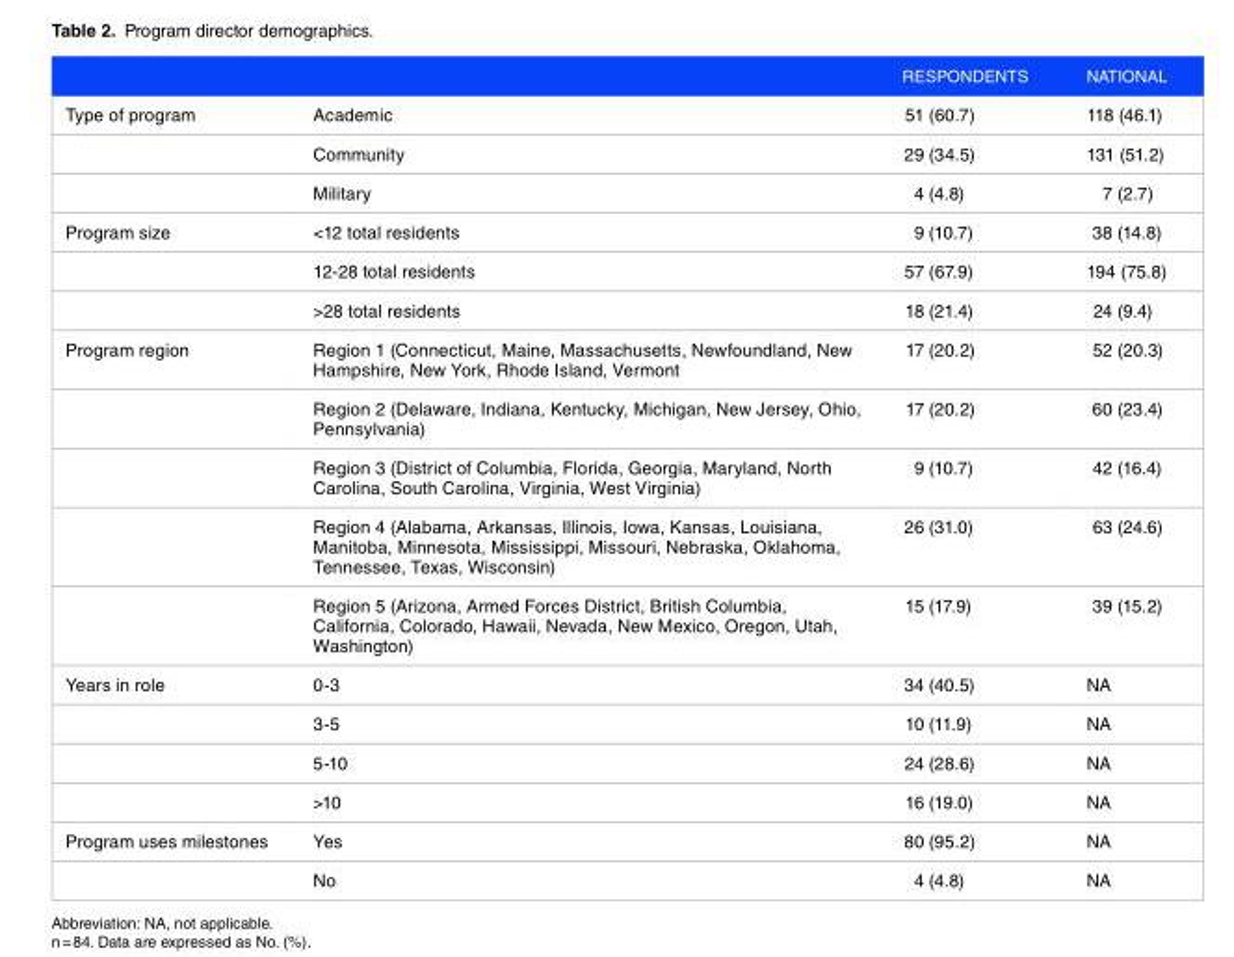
<table><thead><tr><td></td><td></td><td>RESPONDENTS</td><td>NATIONAL</td></tr></thead><tbody><tr><td rowspan="3">Type of program</td><td>Academic</td><td>51 (60.7)</td><td>118 (46.1)</td></tr><tr><td>Community</td><td>29 (34.5)</td><td>131 (51.2)</td></tr><tr><td>Military</td><td>4 (4.8)</td><td>7 (2.7)</td></tr><tr><td rowspan="3">Program size</td><td>&lt;12 total residents</td><td>9 (10.7)</td><td>38 (14.8)</td></tr><tr><td>12-28 total residents</td><td>57 (67.9)</td><td>194 (75.8)</td></tr><tr><td>&gt;28 total residents</td><td>18 (21.4)</td><td>24 (9.4)</td></tr><tr><td rowspan="5">Program region</td><td>Region 1 (Connecticut, Maine, Massachusetts, Newfoundland, New Hampshire, New York, Rhode Island, Vermont</td><td>17 (20.2)</td><td>52 (20.3)</td></tr><tr><td>Region 2 (Delaware, Indiana, Kentucky, Michigan, New Jersey, Ohio, Pennsylvania)</td><td>17 (20.2)</td><td>60 (23.4)</td></tr><tr><td>Region 3 (District of Columbia, Florida, Georgia, Maryland, North Carolina, South Carolina, Virginia, West Virginia)</td><td>9 (10.7)</td><td>42 (16.4)</td></tr><tr><td>Region 4 (Alabama, Arkansas, Illinois, Iowa, Kansas, Louisiana, Manitoba, Minnesota, Mississippi, Missouri, Nebraska, Oklahoma, Tennessee, Texas, Wisconsin)</td><td>26 (31.0)</td><td>63 (24.6)</td></tr><tr><td>Region 5 (Arizona, Armed Forces District, British Columbia, California, Colorado, Hawaii, Nevada, New Mexico, Oregon, Utah, Washington)</td><td>15 (17.9)</td><td>39 (15.2)</td></tr><tr><td rowspan="4">Years in role</td><td>0-3</td><td>34 (40.5)</td><td>NA</td></tr><tr><td>3-5</td><td>10 (11.9)</td><td>NA</td></tr><tr><td>5-10</td><td>24 (28.6)</td><td>NA</td></tr><tr><td>&gt;10</td><td>16 (19.0)</td><td>NA</td></tr><tr><td rowspan="2">Program uses milestones</td><td>Yes</td><td>80 (95.2)</td><td>NA</td></tr><tr><td>No</td><td>4 (4.8)</td><td>NA</td></tr></tbody></table>